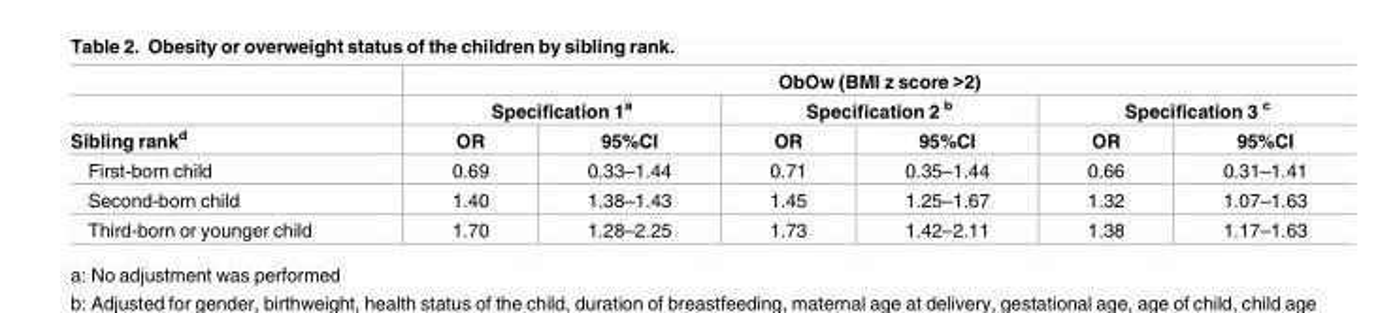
<table><thead><tr><td rowspan="3">Sibling rank<sup>d</sup></td><td colspan="6">ObOw (BMI z score &gt;2)</td></tr><tr><td colspan="2">Specification 1<sup>a</sup></td><td colspan="2">Specification 2 <sup>b</sup></td><td colspan="2">Specification 3 <sup>c</sup></td></tr><tr><td>OR</td><td>95%CI</td><td>OR</td><td>95%CI</td><td>OR</td><td>95%CI</td></tr></thead><tbody><tr><td>First-born child</td><td>0.69</td><td>0.33–1.44</td><td>0.71</td><td>0.35–1.44</td><td>0.66</td><td>0.31–1.41</td></tr><tr><td>Second-born child</td><td>1.40</td><td>1.38–1.43</td><td>1.45</td><td>1.25–1.67</td><td>1.32</td><td>1.07–1.63</td></tr><tr><td>Third-born or younger child</td><td>1.70</td><td>1.28–2.25</td><td>1.73</td><td>1.42–2.11</td><td>1.38</td><td>1.17–1.63</td></tr></tbody></table>